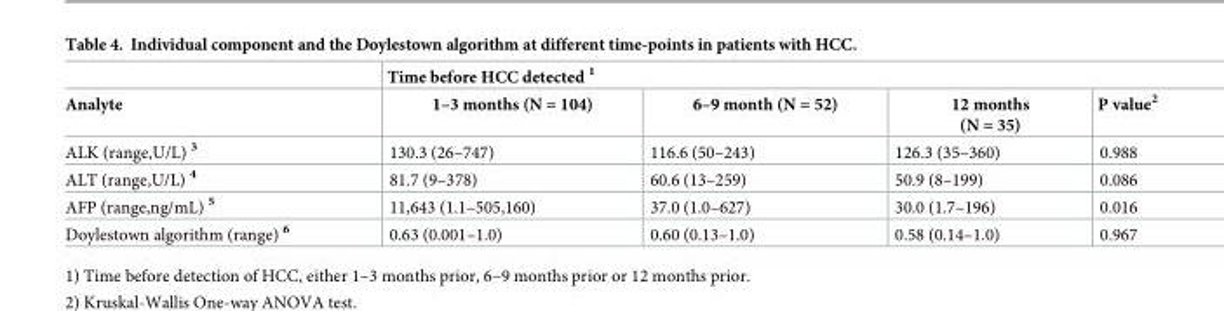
<table><thead><tr><td rowspan="2">Analyte</td><td colspan="4">Time before HCC detected <sup>1</sup></td></tr><tr><td>1–3 months (N = 104)</td><td>6–9 month (N = 52)</td><td>12 months (N = 35)</td><td>P value<sup>2</sup></td></tr></thead><tbody><tr><td>ALK (range,U/L) <sup>3</sup></td><td>130.3 (26–747)</td><td>116.6 (50–243)</td><td>126.3 (35–360)</td><td>0.988</td></tr><tr><td>ALT (range,U/L) <sup>4</sup></td><td>81.7 (9–378)</td><td>60.6 (13–259)</td><td>50.9 (8–199)</td><td>0.086</td></tr><tr><td>AFP (range,ng/mL) <sup>5</sup></td><td>11,643 (1.1–505,160)</td><td>37.0 (1.0–627)</td><td>30.0 (1.7–196)</td><td>0.016</td></tr><tr><td>Doylestown algorithm (range) <sup>6</sup></td><td>0.63 (0.001–1.0)</td><td>0.60 (0.13–1.0)</td><td>0.58 (0.14–1.0)</td><td>0.967</td></tr></tbody></table>